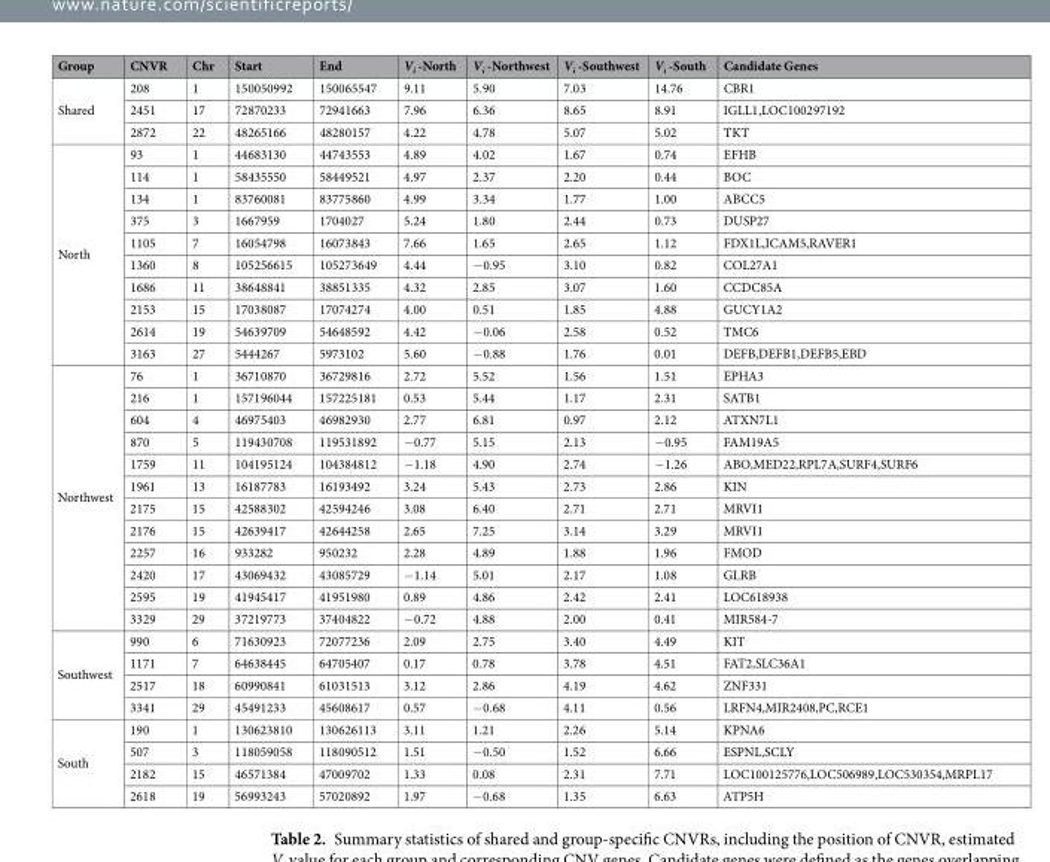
<table><thead><tr><td>Group</td><td>CNVR</td><td>Chr</td><td>Start</td><td>End</td><td>V<sub>i</sub> -North</td><td>V<sub>i</sub> -Northwest</td><td>V<sub>i</sub> -Southwest</td><td>V<sub>i</sub> -South</td><td>Candidate Genes</td></tr></thead><tbody><tr><td rowspan="3">Shared</td><td>208</td><td>1</td><td>150050992</td><td>150065547</td><td>9.11</td><td>5.90</td><td>7.03</td><td>14.76</td><td>CBR1</td></tr><tr><td>2451</td><td>17</td><td>72870233</td><td>72941663</td><td>7.96</td><td>6.36</td><td>8.65</td><td>8.91</td><td>IGLL1,LOC100297192</td></tr><tr><td>2872</td><td>22</td><td>48265166</td><td>48280157</td><td>4.22</td><td>4.78</td><td>5.07</td><td>5.02</td><td>TKT</td></tr><tr><td rowspan="10">North</td><td>93</td><td>1</td><td>44683130</td><td>44743553</td><td>4.89</td><td>4.02</td><td>1.67</td><td>0.74</td><td>EFHB</td></tr><tr><td>114</td><td>1</td><td>58435550</td><td>58449521</td><td>4.97</td><td>2.37</td><td>2.20</td><td>0.44</td><td>BOC</td></tr><tr><td>134</td><td>1</td><td>83760081</td><td>83775860</td><td>4.99</td><td>3.34</td><td>1.77</td><td>1.00</td><td>ABCC5</td></tr><tr><td>375</td><td>3</td><td>1667959</td><td>1704027</td><td>5.24</td><td>1.80</td><td>2.44</td><td>0.73</td><td>DUSP27</td></tr><tr><td>1105</td><td>7</td><td>16054798</td><td>16073843</td><td>7.66</td><td>1.65</td><td>2.65</td><td>1.12</td><td>FDX1L,ICAM5,RAVER1</td></tr><tr><td>1360</td><td>8</td><td>105256615</td><td>105273649</td><td>4.44</td><td>−0.95</td><td>3.10</td><td>0.82</td><td>COL27A1</td></tr><tr><td>1686</td><td>11</td><td>38648841</td><td>38851335</td><td>4.32</td><td>2.85</td><td>3.07</td><td>1.60</td><td>CCDC85A</td></tr><tr><td>2153</td><td>15</td><td>17038087</td><td>17074274</td><td>4.00</td><td>0.51</td><td>1.85</td><td>4.88</td><td>GUCY1A2</td></tr><tr><td>2614</td><td>19</td><td>54639709</td><td>54648592</td><td>4.42</td><td>−0.06</td><td>2.58</td><td>0.52</td><td>TMC6</td></tr><tr><td>3163</td><td>27</td><td>5444267</td><td>5973102</td><td>5.60</td><td>−0.88</td><td>1.76</td><td>0.01</td><td>DEFB,DEFB1,DEFB5,EBD</td></tr><tr><td rowspan="12">Northwest</td><td>76</td><td>1</td><td>36710870</td><td>36729816</td><td>2.72</td><td>5.52</td><td>1.56</td><td>1.51</td><td>EPHA3</td></tr><tr><td>216</td><td>1</td><td>157196044</td><td>157225181</td><td>0.53</td><td>5.44</td><td>1.17</td><td>2.31</td><td>SATB1</td></tr><tr><td>604</td><td>4</td><td>46975403</td><td>46982930</td><td>2.77</td><td>6.81</td><td>0.97</td><td>2.12</td><td>ATXN7L1</td></tr><tr><td>870</td><td>5</td><td>119430708</td><td>119531892</td><td>−0.77</td><td>5.15</td><td>2.13</td><td>−0.95</td><td>FAM19A5</td></tr><tr><td>1759</td><td>11</td><td>104195124</td><td>104384812</td><td>−1.18</td><td>4.90</td><td>2.74</td><td>−1.26</td><td>ABO,MED22,RPL7A,SURF4,SURF6</td></tr><tr><td>1961</td><td>13</td><td>16187783</td><td>16193492</td><td>3.24</td><td>5.43</td><td>2.73</td><td>2.86</td><td>KIN</td></tr><tr><td>2175</td><td>15</td><td>42588302</td><td>42594246</td><td>3.08</td><td>6.40</td><td>2.71</td><td>2.71</td><td>MRVI1</td></tr><tr><td>2176</td><td>15</td><td>42639417</td><td>42644258</td><td>2.65</td><td>7.25</td><td>3.14</td><td>3.29</td><td>MRVI1</td></tr><tr><td>2257</td><td>16</td><td>933282</td><td>950232</td><td>2.28</td><td>4.89</td><td>1.88</td><td>1.96</td><td>FMOD</td></tr><tr><td>2420</td><td>17</td><td>43069432</td><td>43085729</td><td>−1.14</td><td>5.01</td><td>2.17</td><td>1.08</td><td>GLRB</td></tr><tr><td>2595</td><td>19</td><td>41945417</td><td>41951980</td><td>0.89</td><td>4.86</td><td>2.42</td><td>2.41</td><td>LOC618938</td></tr><tr><td>3329</td><td>29</td><td>37219773</td><td>37404822</td><td>−0.72</td><td>4.88</td><td>2.00</td><td>0.41</td><td>MIR584-7</td></tr><tr><td rowspan="4">Southwest</td><td>990</td><td>6</td><td>71630923</td><td>72077236</td><td>2.09</td><td>2.75</td><td>3.40</td><td>4.49</td><td>KIT</td></tr><tr><td>1171</td><td>7</td><td>64638445</td><td>64705407</td><td>0.17</td><td>0.78</td><td>3.78</td><td>4.51</td><td>FAT2,SLC36A1</td></tr><tr><td>2517</td><td>18</td><td>60990841</td><td>61031513</td><td>3.12</td><td>2.86</td><td>4.19</td><td>4.62</td><td>ZNF331</td></tr><tr><td>3341</td><td>29</td><td>45491233</td><td>45608617</td><td>0.57</td><td>−0.68</td><td>4.11</td><td>0.56</td><td>LRFN4,MIR2408,PC,RCE1</td></tr><tr><td rowspan="4">South</td><td>190</td><td>1</td><td>130623810</td><td>130626113</td><td>3.11</td><td>1.21</td><td>2.26</td><td>5.14</td><td>KPNA6</td></tr><tr><td>507</td><td>3</td><td>118059058</td><td>118090512</td><td>1.51</td><td>−0.50</td><td>1.52</td><td>6.66</td><td>ESPNL,SCLY</td></tr><tr><td>2182</td><td>15</td><td>46571384</td><td>47009702</td><td>1.33</td><td>0.08</td><td>2.31</td><td>7.71</td><td>LOC100125776,LOC506989,LOC530354,MRPL17</td></tr><tr><td>2618</td><td>19</td><td>56993243</td><td>57020892</td><td>1.97</td><td>−0.68</td><td>1.35</td><td>6.63</td><td>ATP5H</td></tr></tbody></table>